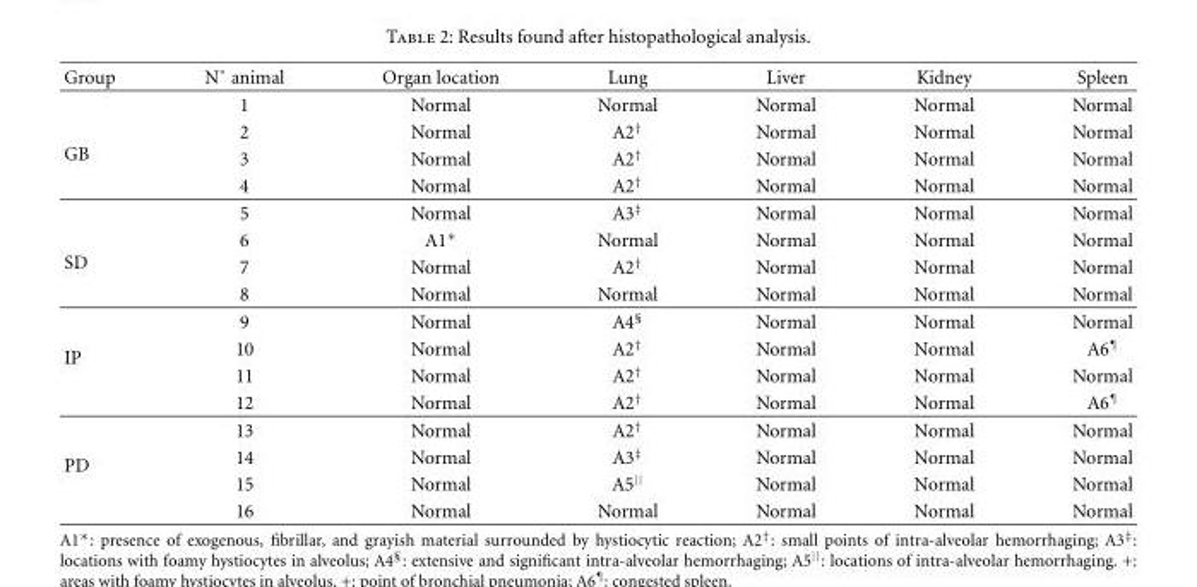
<table><thead><tr><td>Group</td><td>N◦ animal</td><td>Organ location</td><td>Lung</td><td>Liver</td><td>Kidney</td><td>Spleen</td></tr></thead><tbody><tr><td rowspan="4">GB</td><td>1</td><td>Normal</td><td>Normal</td><td>Normal</td><td>Normal</td><td>Normal</td></tr><tr><td>2</td><td>Normal</td><td>A2<sup>†</sup></td><td>Normal</td><td>Normal</td><td>Normal</td></tr><tr><td>3</td><td>Normal</td><td>A2<sup>†</sup></td><td>Normal</td><td>Normal</td><td>Normal</td></tr><tr><td>4</td><td>Normal</td><td>A2<sup>†</sup></td><td>Normal</td><td>Normal</td><td>Normal</td></tr><tr><td rowspan="4">SD</td><td>5</td><td>Normal</td><td>A3<sup>‡</sup></td><td>Normal</td><td>Normal</td><td>Normal</td></tr><tr><td>6</td><td>A1∗</td><td>Normal</td><td>Normal</td><td>Normal</td><td>Normal</td></tr><tr><td>7</td><td>Normal</td><td>A2<sup>†</sup></td><td>Normal</td><td>Normal</td><td>Normal</td></tr><tr><td>8</td><td>Normal</td><td>Normal</td><td>Normal</td><td>Normal</td><td>Normal</td></tr><tr><td rowspan="4">IP</td><td>9</td><td>Normal</td><td>A4<sup>§</sup></td><td>Normal</td><td>Normal</td><td>Normal</td></tr><tr><td>10</td><td>Normal</td><td>A2<sup>†</sup></td><td>Normal</td><td>Normal</td><td>A6<sup>¶</sup></td></tr><tr><td>11</td><td>Normal</td><td>A2<sup>†</sup></td><td>Normal</td><td>Normal</td><td>Normal</td></tr><tr><td>12</td><td>Normal</td><td>A2<sup>†</sup></td><td>Normal</td><td>Normal</td><td>A6<sup>¶</sup></td></tr><tr><td rowspan="4">PD</td><td>13</td><td>Normal</td><td>A2<sup>†</sup></td><td>Normal</td><td>Normal</td><td>Normal</td></tr><tr><td>14</td><td>Normal</td><td>A3<sup>‡</sup></td><td>Normal</td><td>Normal</td><td>Normal</td></tr><tr><td>15</td><td>Normal</td><td>A5<sup>||</sup></td><td>Normal</td><td>Normal</td><td>Normal</td></tr><tr><td>16</td><td>Normal</td><td>Normal</td><td>Normal</td><td>Normal</td><td>Normal</td></tr></tbody></table>